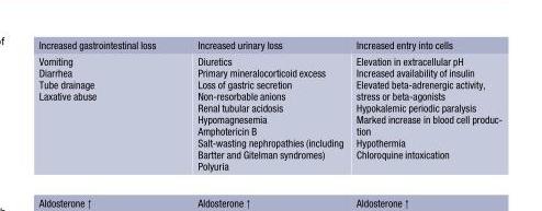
<table><thead><tr><td>Increased gastrointestinal loss</td><td>Increased urinary loss</td><td>Increased entry into cells</td></tr></thead><tbody><tr><td>Vomiting Diarrhea Tube drainage Laxative abuse</td><td>Diuretics Primary mineralocorticoid excess Loss of gastric secretion Non-resorbable anions Renal tubular acidosis Hypomagnesemia Amphotericin B Salt-wasting nephropathies (including Bartter and Gitelman syndromes) Polyuria</td><td>Elevation in extracellular pH Increased availability of insulin Elevated beta-adrenergic activity, stress or beta-agonists Hypokalemic periodic paralysis Marked increase in blood cell produc- tion Hypothermia Chloroquine intoxication</td></tr></tbody></table>